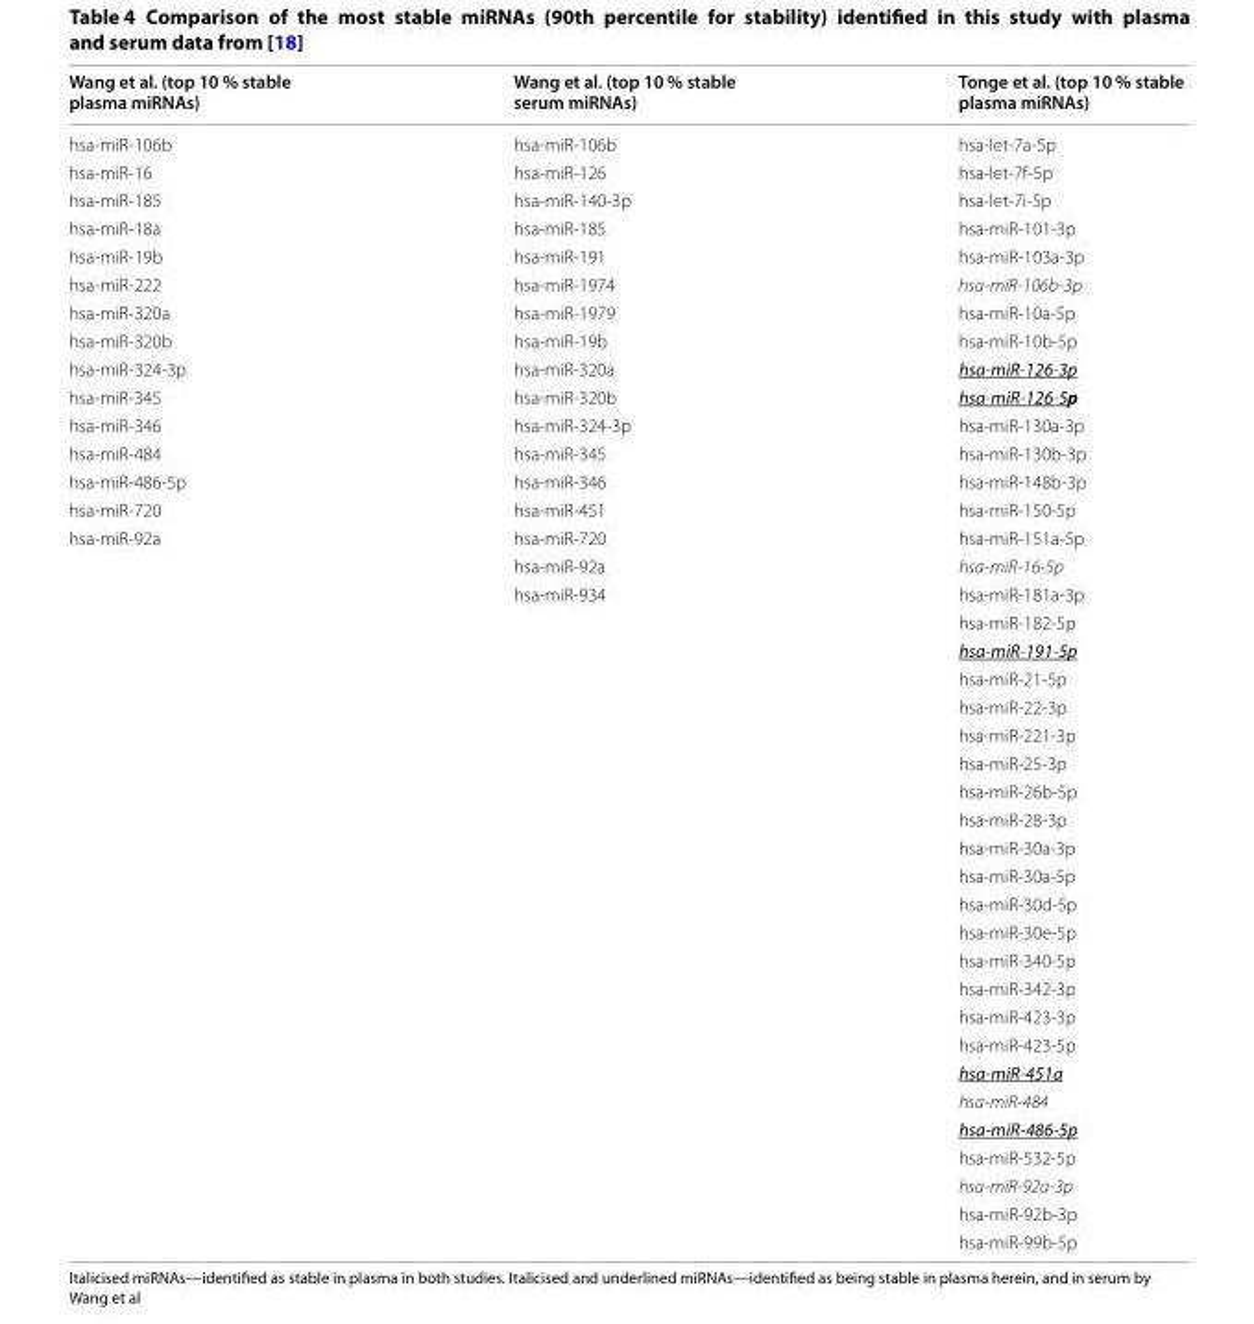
<table><thead><tr><td>Wang et al. (top 10 % stable plasma miRNAs)</td><td>Wang et al. (top 10 % stable serum miRNAs)</td><td>Tonge et al. (top 10 % stable plasma miRNAs)</td></tr></thead><tbody><tr><td>hsa-miR-106b</td><td>hsa-miR-106b</td><td>hsa-let-7a-5p</td></tr><tr><td>hsa-miR-16</td><td>hsa-miR-126</td><td>hsa-let-7f-5p</td></tr><tr><td>hsa-miR-185</td><td>hsa-miR-140-3p</td><td>hsa-let-7i-5p</td></tr><tr><td>hsa-miR-18a</td><td>hsa-miR-185</td><td>hsa-miR-101-3p</td></tr><tr><td>hsa-miR-19b</td><td>hsa-miR-191</td><td>hsa-miR-103a-3p</td></tr><tr><td>hsa-miR-222</td><td>hsa-miR-1974</td><td>hsa-miR-106b-3p</td></tr><tr><td>hsa-miR-320a</td><td>hsa-miR-1979</td><td>hsa-miR-10a-5p</td></tr><tr><td>hsa-miR-320b</td><td>hsa-miR-19b</td><td>hsa-miR-10b-5p</td></tr><tr><td>hsa-miR-324-3p</td><td>hsa-miR-320a</td><td>hsa-miR-126-3p</td></tr><tr><td>hsa-miR-345</td><td>hsa-miR-320b</td><td>hsa-miR-126-5p</td></tr><tr><td>hsa-miR-346</td><td>hsa-miR-324-3p</td><td>hsa-miR-130a-3p</td></tr><tr><td>hsa-miR-484</td><td>hsa-miR-345</td><td>hsa-miR-130b-3p</td></tr><tr><td>hsa-miR-486-5p</td><td>hsa-miR-346</td><td>hsa-miR-148b-3p</td></tr><tr><td>hsa-miR-720</td><td>hsa-miR-451</td><td>hsa-miR-150-5p</td></tr><tr><td rowspan="26">hsa-miR-92a</td><td>hsa-miR-720</td><td>hsa-miR-151a-5p</td></tr><tr><td>hsa-miR-92a</td><td>hsa-miR-16-5p</td></tr><tr><td>hsa-miR-934</td><td>hsa-miR-181a-3p</td></tr><tr><td></td><td>hsa-miR-182-5p</td></tr><tr><td></td><td>hsa-miR-191-5p</td></tr><tr><td></td><td>hsa-miR-21-5p</td></tr><tr><td></td><td>hsa-miR-22-3p</td></tr><tr><td></td><td>hsa-miR-221-3p</td></tr><tr><td></td><td>hsa-miR-25-3p</td></tr><tr><td></td><td>hsa-miR-26b-5p</td></tr><tr><td></td><td>hsa-miR-28-3p</td></tr><tr><td></td><td>hsa-miR-30a-3p</td></tr><tr><td></td><td>hsa-miR-30a-5p</td></tr><tr><td></td><td>hsa-miR-30d-5p</td></tr><tr><td></td><td>hsa-miR-30e-5p</td></tr><tr><td></td><td>hsa-miR-340-5p</td></tr><tr><td></td><td>hsa-miR-342-3p</td></tr><tr><td></td><td>hsa-miR-423-3p</td></tr><tr><td></td><td>hsa-miR-423-5p</td></tr><tr><td></td><td>hsa-miR-451a</td></tr><tr><td></td><td>hsa-miR-484</td></tr><tr><td></td><td>hsa-miR-486-5p</td></tr><tr><td></td><td>hsa-miR-532-5p</td></tr><tr><td></td><td>hsa-miR-92a-3p</td></tr><tr><td></td><td>hsa-miR-92b-3p</td></tr><tr><td></td><td>hsa-miR-99b-5p</td></tr></tbody></table>